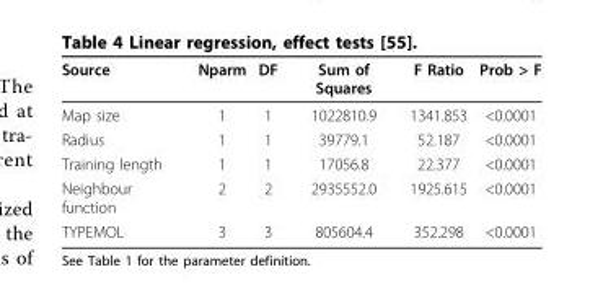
<table><thead><tr><td>Source</td><td>Nparm</td><td>DF</td><td>Sum of Squares</td><td>F Ratio</td><td>Prob &gt; F</td></tr></thead><tbody><tr><td>Map size</td><td>1</td><td>1</td><td>1022810.9</td><td>1341.853</td><td>&lt;0.0001</td></tr><tr><td>Radius</td><td>1</td><td>1</td><td>39779.1</td><td>52.187</td><td>&lt;0.0001</td></tr><tr><td>Training length</td><td>1</td><td>1</td><td>17056.8</td><td>22.377</td><td>&lt;0.0001</td></tr><tr><td>Neighbour function</td><td>2</td><td>2</td><td>2935552.0</td><td>1925.615</td><td>&lt;0.0001</td></tr><tr><td>TYPEMOL</td><td>3</td><td>3</td><td>805604.4</td><td>352.298</td><td>&lt;0.0001</td></tr></tbody></table>